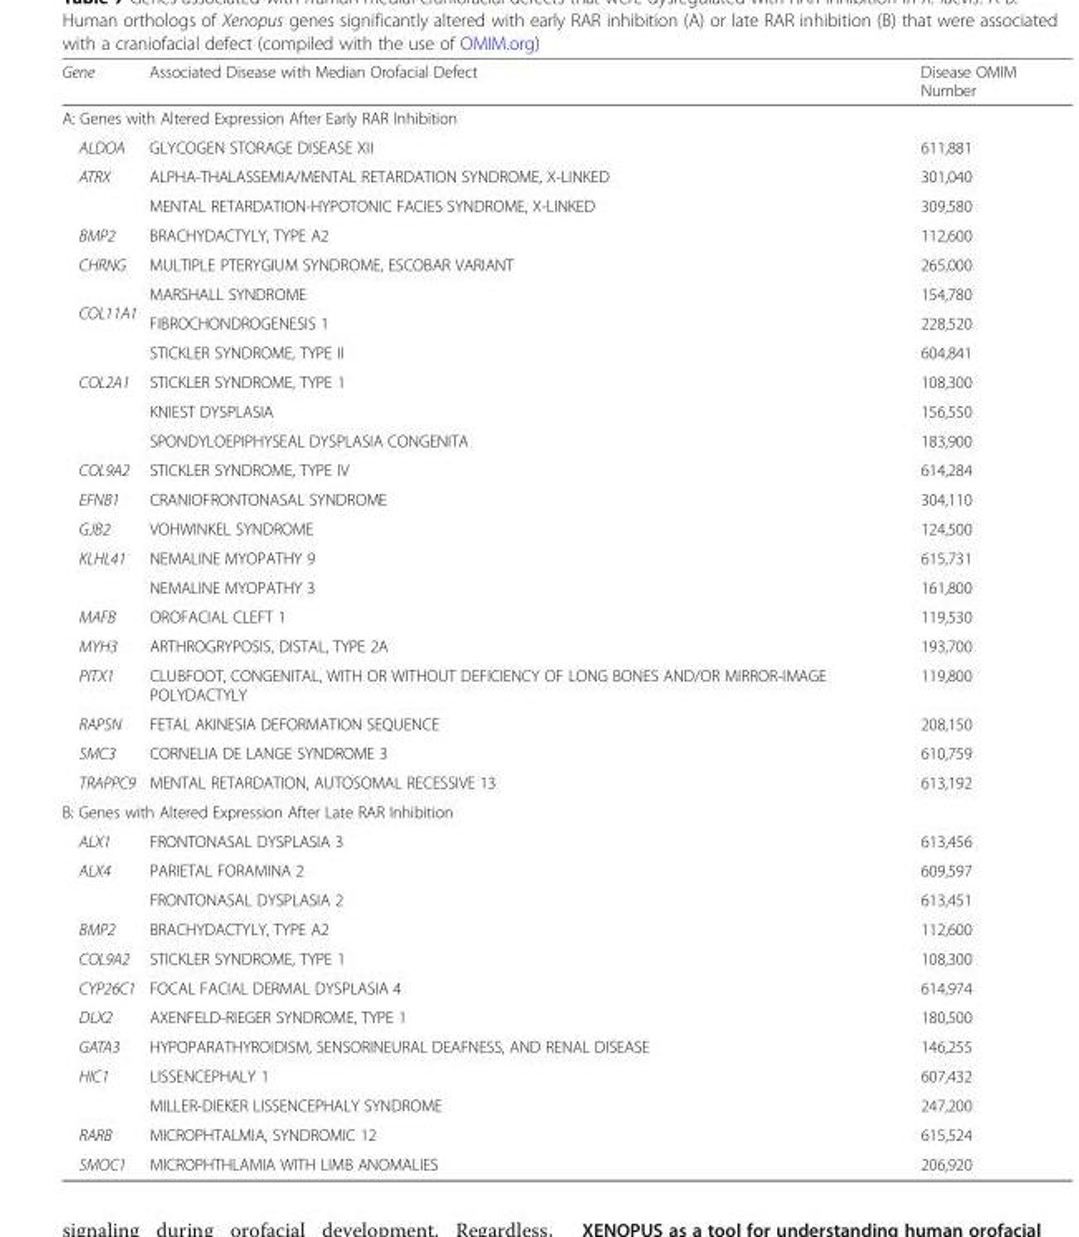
<table><thead><tr><td>Gene</td><td>Associated Disease with Median Orofacial Defect</td><td>Disease OMIM Number</td></tr></thead><tbody><tr><td colspan="3">A: Genes with Altered Expression After Early RAR Inhibition</td></tr><tr><td>ALDOA</td><td>GLYCOGEN STORAGE DISEASE XII</td><td>611,881</td></tr><tr><td rowspan="2">ATRX</td><td>ALPHA-THALASSEMIA/MENTAL RETARDATION SYNDROME, X-LINKED</td><td>301,040</td></tr><tr><td>MENTAL RETARDATION-HYPOTONIC FACIES SYNDROME, X-LINKED</td><td>309,580</td></tr><tr><td>BMP2</td><td>BRACHYDACTYLY, TYPE A2</td><td>112,600</td></tr><tr><td>CHRNG</td><td>MULTIPLE PTERYGIUM SYNDROME, ESCOBAR VARIANT</td><td>265,000</td></tr><tr><td rowspan="3">COL11A1</td><td>MARSHALL SYNDROME</td><td>154,780</td></tr><tr><td>FIBROCHONDROGENESIS 1</td><td>228,520</td></tr><tr><td>STICKLER SYNDROME, TYPE II</td><td>604,841</td></tr><tr><td rowspan="3">COL2A1</td><td>STICKLER SYNDROME, TYPE 1</td><td>108,300</td></tr><tr><td>KNIEST DYSPLASIA</td><td>156,550</td></tr><tr><td>SPONDYLOEPIPHYSEAL DYSPLASIA CONGENITA</td><td>183,900</td></tr><tr><td>COL9A2</td><td>STICKLER SYNDROME, TYPE IV</td><td>614,284</td></tr><tr><td>EFNB1</td><td>CRANIOFRONTONASAL SYNDROME</td><td>304,110</td></tr><tr><td>GJB2</td><td>VOHWINKEL SYNDROME</td><td>124,500</td></tr><tr><td rowspan="2">KLHL41</td><td>NEMALINE MYOPATHY 9</td><td>615,731</td></tr><tr><td>NEMALINE MYOPATHY 3</td><td>161,800</td></tr><tr><td>MAFB</td><td>OROFACIAL CLEFT 1</td><td>119,530</td></tr><tr><td>MYH3</td><td>ARTHROGRYPOSIS, DISTAL, TYPE 2A</td><td>193,700</td></tr><tr><td>PITX1</td><td>CLUBFOOT, CONGENITAL, WITH OR WITHOUT DEFICIENCY OF LONG BONES AND/OR MIRROR-IMAGE POLYDACTYLY</td><td>119,800</td></tr><tr><td>RAPSN</td><td>FETAL AKINESIA DEFORMATION SEQUENCE</td><td>208,150</td></tr><tr><td>SMC3</td><td>CORNELIA DE LANGE SYNDROME 3</td><td>610,759</td></tr><tr><td>TRAPPC9</td><td>MENTAL RETARDATION, AUTOSOMAL RECESSIVE 13</td><td>613,192</td></tr><tr><td colspan="3">B: Genes with Altered Expression After Late RAR Inhibition</td></tr><tr><td>ALX1</td><td>FRONTONASAL DYSPLASIA 3</td><td>613,456</td></tr><tr><td rowspan="2">ALX4</td><td>PARIETAL FORAMINA 2</td><td>609,597</td></tr><tr><td>FRONTONASAL DYSPLASIA 2</td><td>613,451</td></tr><tr><td>BMP2</td><td>BRACHYDACTYLY, TYPE A2</td><td>112,600</td></tr><tr><td>COL9A2</td><td>STICKLER SYNDROME, TYPE 1</td><td>108,300</td></tr><tr><td>CYP26C1</td><td>FOCAL FACIAL DERMAL DYSPLASIA 4</td><td>614,974</td></tr><tr><td>DLX2</td><td>AXENFELD-RIEGER SYNDROME, TYPE 1</td><td>180,500</td></tr><tr><td>GATA3</td><td>HYPOPARATHYROIDISM, SENSORINEURAL DEAFNESS, AND RENAL DISEASE</td><td>146,255</td></tr><tr><td rowspan="2">HIC1</td><td>LISSENCEPHALY 1</td><td>607,432</td></tr><tr><td>MILLER-DIEKER LISSENCEPHALY SYNDROME</td><td>247,200</td></tr><tr><td>RARB</td><td>MICROPHTALMIA, SYNDROMIC 12</td><td>615,524</td></tr><tr><td>SMOC1</td><td>MICROPHTHLAMIA WITH LIMB ANOMALIES</td><td>206,920</td></tr></tbody></table>